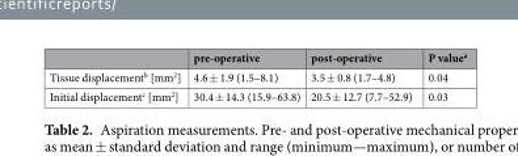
<table><thead><tr><td></td><td>pre-operative</td><td>post-operative</td><td>P value<sup>a</sup></td></tr></thead><tbody><tr><td>Tissue displacement<sup>b</sup> [mm<sup>2</sup>]</td><td>4.6 ± 1.9 (1.5–8.1)</td><td>3.5 ± 0.8 (1.7–4.8)</td><td>0.04</td></tr><tr><td>Initial displacement<sup>c</sup> [mm<sup>2</sup>]</td><td>30.4 ± 14.3 (15.9–63.8)</td><td>20.5 ± 12.7 (7.7–52.9)</td><td>0.03</td></tr></tbody></table>